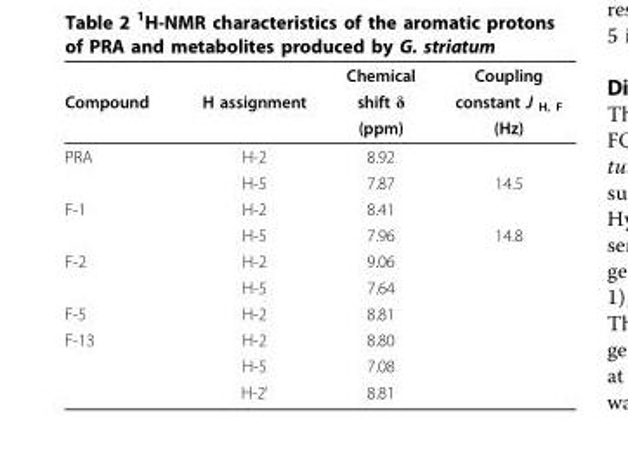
<table><thead><tr><td rowspan="3">Compound</td><td rowspan="3">H assignment</td><td rowspan="3">Chemical shift δ (ppm)</td><td rowspan="3">Coupling constant J <sub>H, F</sub> (Hz)</td></tr><tr></tr><tr></tr></thead><tbody><tr><td rowspan="2">PRA</td><td>H-2</td><td>8.92</td><td></td></tr><tr><td>H-5</td><td>7.87</td><td>14.5</td></tr><tr><td rowspan="2">F-1</td><td>H-2</td><td>8.41</td><td></td></tr><tr><td>H-5</td><td>7.96</td><td>14.8</td></tr><tr><td rowspan="2">F-2</td><td>H-2</td><td>9.06</td><td></td></tr><tr><td>H-5</td><td>7.64</td><td></td></tr><tr><td>F-5</td><td>H-2</td><td>8.81</td><td></td></tr><tr><td rowspan="3">F-13</td><td>H-2</td><td>8.80</td><td></td></tr><tr><td>H-5</td><td>7.08</td><td></td></tr><tr><td>H-2’</td><td>8.81</td><td></td></tr></tbody></table>